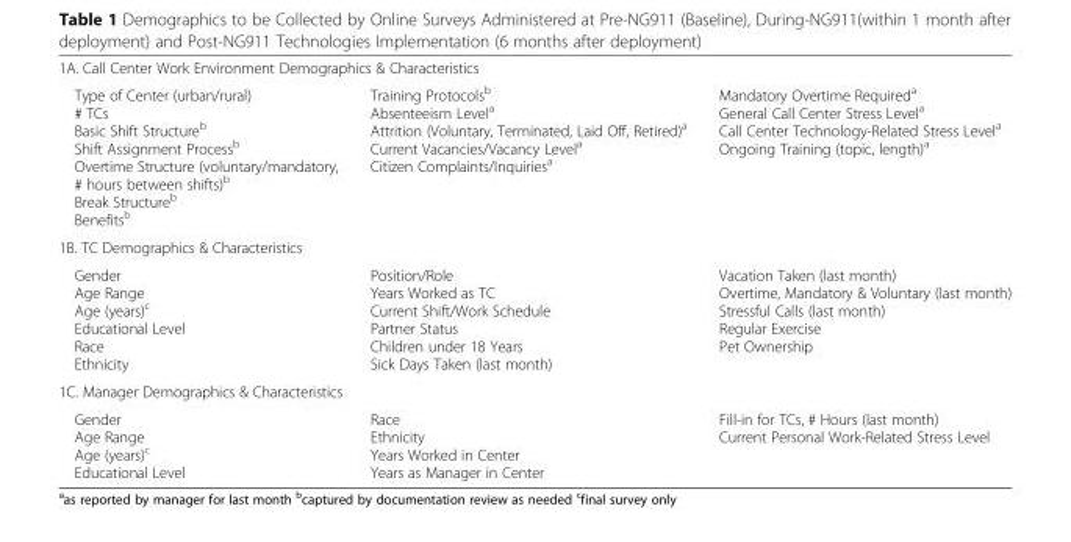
<table><tbody><tr><td colspan="3">1A. Call Center Work Environment Demographics &amp; Characteristics</td></tr><tr><td>Type of Center (urban/rural) # TCs Basic Shift Structure<sup>b</sup> Shift Assignment Process<sup>b</sup> Overtime Structure (voluntary/mandatory, # hours between shifts)<sup>b</sup> Break Structure<sup>b</sup> Benefits<sup>b</sup></td><td>Training Protocols<sup>b</sup> Absenteeism Level<sup>a</sup> Attrition (Voluntary, Terminated, Laid Off, Retired)<sup>a</sup> Current Vacancies/Vacancy Level<sup>a</sup> Citizen Complaints/Inquiries<sup>a</sup></td><td>Mandatory Overtime Required<sup>a</sup> General Call Center Stress Level<sup>a</sup> Call Center Technology-Related Stress Level<sup>a</sup> Ongoing Training (topic, length)<sup>a</sup></td></tr><tr><td colspan="3">1B. TC Demographics &amp; Characteristics</td></tr><tr><td>Gender Age Range Age (years)<sup>c</sup> Educational Level Race Ethnicity</td><td>Position/Role Years Worked as TC Current Shift/Work Schedule Partner Status Children under 18 Years Sick Days Taken (last month)</td><td>Vacation Taken (last month) Overtime, Mandatory &amp; Voluntary (last month) Stressful Calls (last month) Regular Exercise Pet Ownership</td></tr><tr><td colspan="3">1C. Manager Demographics &amp; Characteristics</td></tr><tr><td>Gender Age Range Age (years)<sup>c</sup> Educational Level</td><td>Race Ethnicity Years Worked in Center Years as Manager in Center</td><td>Fill-in for TCs, # Hours (last month) Current Personal Work-Related Stress Level</td></tr></tbody></table>